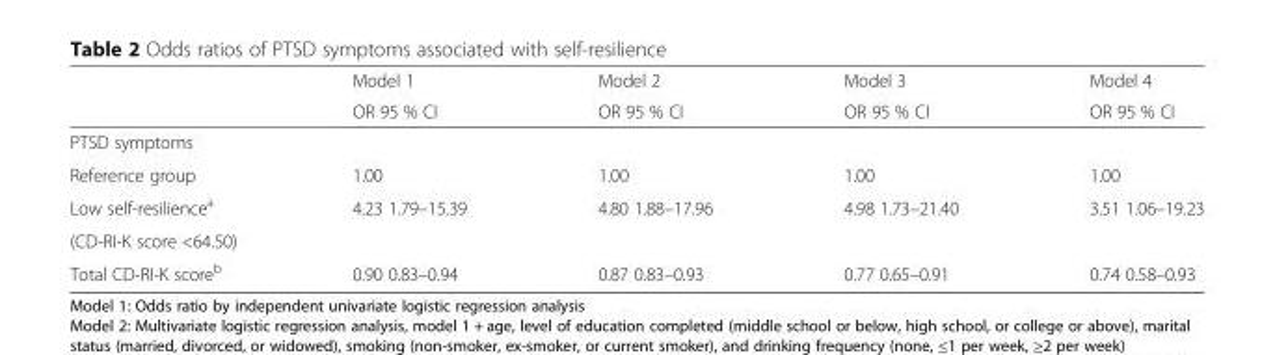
<table><thead><tr><td rowspan="2"></td><td rowspan="2">Model 1 OR 95 % CI</td><td rowspan="2">Model 2 OR 95 % CI</td><td rowspan="2">Model 3 OR 95 % CI</td><td rowspan="2">Model 4 OR 95 % CI</td></tr><tr></tr></thead><tbody><tr><td colspan="5">PTSD symptoms</td></tr><tr><td>Reference group</td><td>1.00</td><td>1.00</td><td>1.00</td><td>1.00</td></tr><tr><td>Low self-resilience<sup>a</sup></td><td>4.23 1.79–15.39</td><td>4.80 1.88–17.96</td><td>4.98 1.73–21.40</td><td>3.51 1.06–19.23</td></tr><tr><td colspan="5">(CD-RI-K score &lt;64.50)</td></tr><tr><td>Total CD-RI-K score<sup>b</sup></td><td>0.90 0.83–0.94</td><td>0.87 0.83–0.93</td><td>0.77 0.65–0.91</td><td>0.74 0.58–0.93</td></tr></tbody></table>